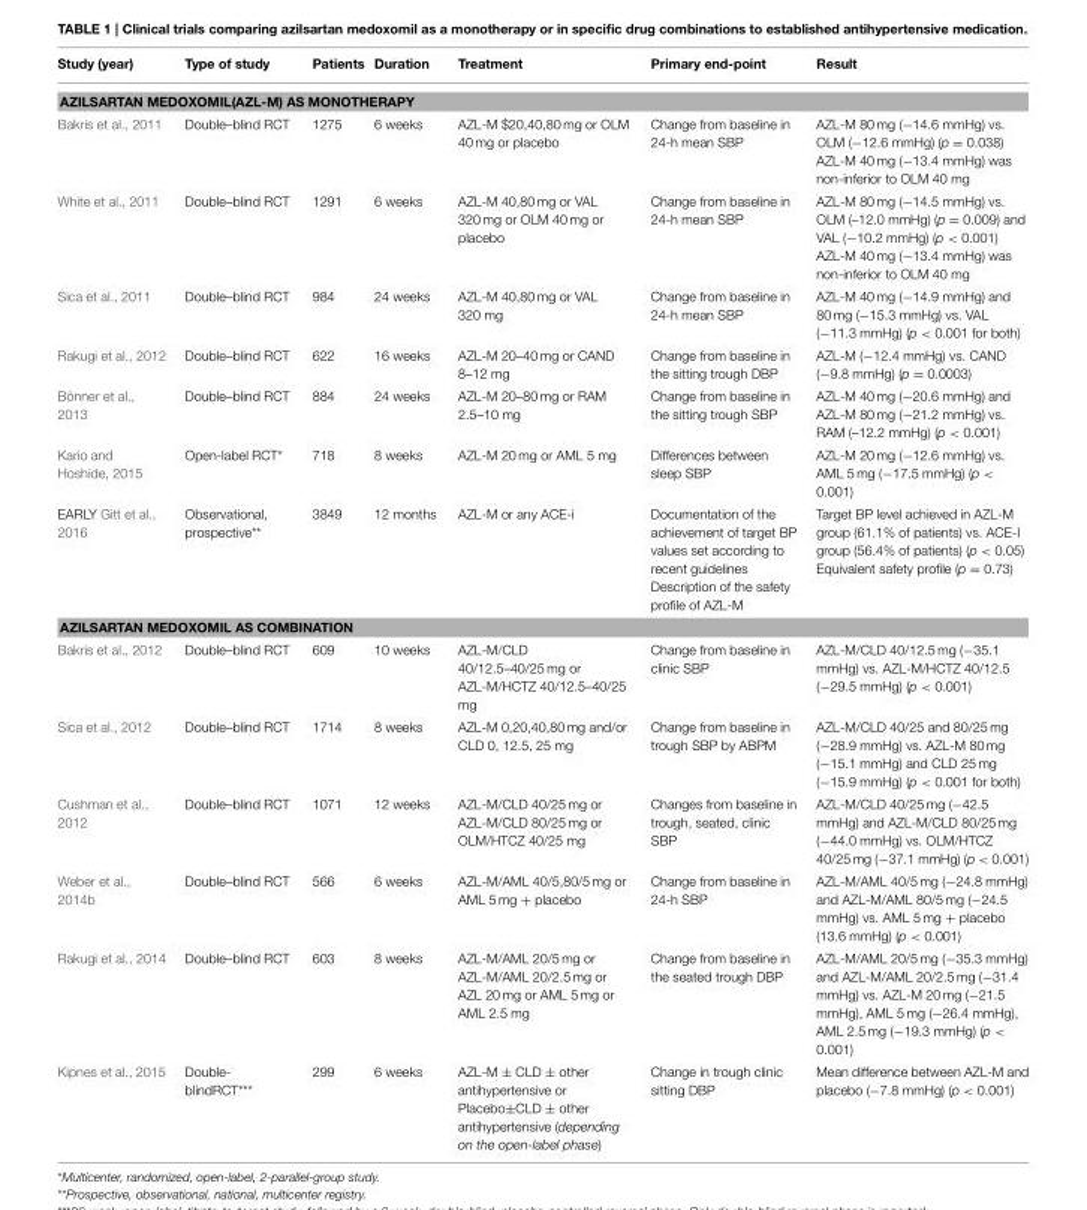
<table><thead><tr><td>Study (year)</td><td>Type of study</td><td>Patients</td><td>Duration</td><td>Treatment</td><td>Primary end-point</td><td>Result</td></tr></thead><tbody><tr><td colspan="7">AZILSARTAN MEDOXOMIL(AZL-M) AS MONOTHERAPY</td></tr><tr><td>Bakris et al., 2011</td><td>Double–blind RCT</td><td>1275</td><td>6 weeks</td><td>AZL-M $20,40,80 mg or OLM 40 mg or placebo</td><td>Change from baseline in 24-h mean SBP</td><td>AZL-M 80 mg (−14.6 mmHg) vs. OLM (−12.6 mmHg) (p = 0.038) AZL-M 40 mg (−13.4 mmHg) was non-inferior to OLM 40 mg</td></tr><tr><td>White et al., 2011</td><td>Double–blind RCT</td><td>1291</td><td>6 weeks</td><td>AZL-M 40,80 mg or VAL 320 mg or OLM 40 mg or placebo</td><td>Change from baseline in 24-h mean SBP</td><td>AZL-M 80 mg (−14.5 mmHg) vs. OLM (–12.0 mmHg) (p = 0.009) and VAL (−10.2 mmHg) (p &lt; 0.001) AZL-M 40 mg (−13.4 mmHg) was non-inferior to OLM 40 mg</td></tr><tr><td>Sica et al., 2011</td><td>Double–blind RCT</td><td>984</td><td>24 weeks</td><td>AZL-M 40,80 mg or VAL 320 mg</td><td>Change from baseline in 24-h mean SBP</td><td>AZL-M 40 mg (−14.9 mmHg) and 80 mg (−15.3 mmHg) vs. VAL (−11.3 mmHg) (p &lt; 0.001 for both)</td></tr><tr><td>Rakugi et al., 2012</td><td>Double–blind RCT</td><td>622</td><td>16 weeks</td><td>AZL-M 20–40 mg or CAND 8–12 mg</td><td>Change from baseline in the sitting trough DBP</td><td>AZL-M (−12.4 mmHg) vs. CAND (−9.8 mmHg) (p = 0.0003)</td></tr><tr><td>Bönner et al., 2013</td><td>Double–blind RCT</td><td>884</td><td>24 weeks</td><td>AZL-M 20–80 mg or RAM 2.5–10 mg</td><td>Change from baseline in the sitting trough SBP</td><td>AZL-M 40 mg (−20.6 mmHg) and AZL-M 80 mg (−21.2 mmHg) vs. RAM (–12.2 mmHg) (p &lt; 0.001)</td></tr><tr><td>Kario and Hoshide, 2015</td><td>Open-label RCT*</td><td>718</td><td>8 weeks</td><td>AZL-M 20 mg or AML 5 mg</td><td>Differences between sleep SBP</td><td>AZL-M 20 mg (−12.6 mmHg) vs. AML 5 mg (−17.5 mmHg) (p &lt; 0.001)</td></tr><tr><td>EARLY Gitt et al., 2016</td><td>Observational, prospective**</td><td>3849</td><td>12 months</td><td>AZL-M or any ACE-i</td><td>Documentation of the achievement of target BP values set according to recent guidelines Description of the safety profile of AZL-M</td><td>Target BP level achieved in AZL-M group (61.1% of patients) vs. ACE-I group (56.4% of patients) (p &lt; 0.05) Equivalent safety profile (p = 0.73)</td></tr><tr><td colspan="7">AZILSARTAN MEDOXOMIL AS COMBINATION</td></tr><tr><td>Bakris et al., 2012</td><td>Double–blind RCT</td><td>609</td><td>10 weeks</td><td>AZL-M/CLD 40/12.5–40/25 mg or AZL-M/HCTZ 40/12.5–40/25 mg</td><td>Change from baseline in clinic SBP</td><td>AZL-M/CLD 40/12.5 mg (−35.1 mmHg) vs. AZL-M/HCTZ 40/12.5 (−29.5 mmHg) (p &lt; 0.001)</td></tr><tr><td>Sica et al., 2012</td><td>Double–blind RCT</td><td>1714</td><td>8 weeks</td><td>AZL-M 0,20,40,80 mg and/or CLD 0, 12.5, 25 mg</td><td>Change from baseline in trough SBP by ABPM</td><td>AZL-M/CLD 40/25 and 80/25 mg (−28.9 mmHg) vs. AZL-M 80 mg (−15.1 mmHg) and CLD 25 mg (−15.9 mmHg) (p &lt; 0.001 for both)</td></tr><tr><td>Cushman et al., 2012</td><td>Double–blind RCT</td><td>1071</td><td>12 weeks</td><td>AZL-M/CLD 40/25 mg or AZL-M/CLD 80/25 mg or OLM/HTCZ 40/25 mg</td><td>Changes from baseline in trough, seated, clinic SBP</td><td>AZL-M/CLD 40/25 mg (−42.5 mmHg) and AZL-M/CLD 80/25 mg (−44.0 mmHg) vs. OLM/HTCZ 40/25 mg (−37.1 mmHg) (p &lt; 0.001)</td></tr><tr><td>Weber et al., 2014b</td><td>Double–blind RCT</td><td>566</td><td>6 weeks</td><td>AZL-M/AML 40/5,80/5 mg or AML 5 mg + placebo</td><td>Change from baseline in 24-h SBP</td><td>AZL-M/AML 40/5 mg (−24.8 mmHg) and AZL-M/AML 80/5 mg (−24.5 mmHg) vs. AML 5 mg + placebo (13.6 mmHg) (p &lt; 0.001)</td></tr><tr><td>Rakugi et al., 2014</td><td>Double–blind RCT</td><td>603</td><td>8 weeks</td><td>AZL-M/AML 20/5 mg or AZL-M/AML 20/2.5 mg or AZL 20 mg or AML 5 mg or AML 2.5 mg</td><td>Change from baseline in the seated trough DBP</td><td>AZL-M/AML 20/5 mg (−35.3 mmHg) and AZL-M/AML 20/2.5 mg (−31.4 mmHg) vs. AZL-M 20 mg (−21.5 mmHg), AML 5 mg (−26.4 mmHg), AML 2.5 mg (−19.3 mmHg) (p &lt; 0.001)</td></tr><tr><td>Kipnes et al., 2015</td><td>Double- blindRCT***</td><td>299</td><td>6 weeks</td><td>AZL-M ± CLD ± other antihypertensive or Placebo±CLD ± other antihypertensive (depending on the open-label phase)</td><td>Change in trough clinic sitting DBP</td><td>Mean difference between AZL-M and placebo (−7.8 mmHg) (p &lt; 0.001)</td></tr></tbody></table>